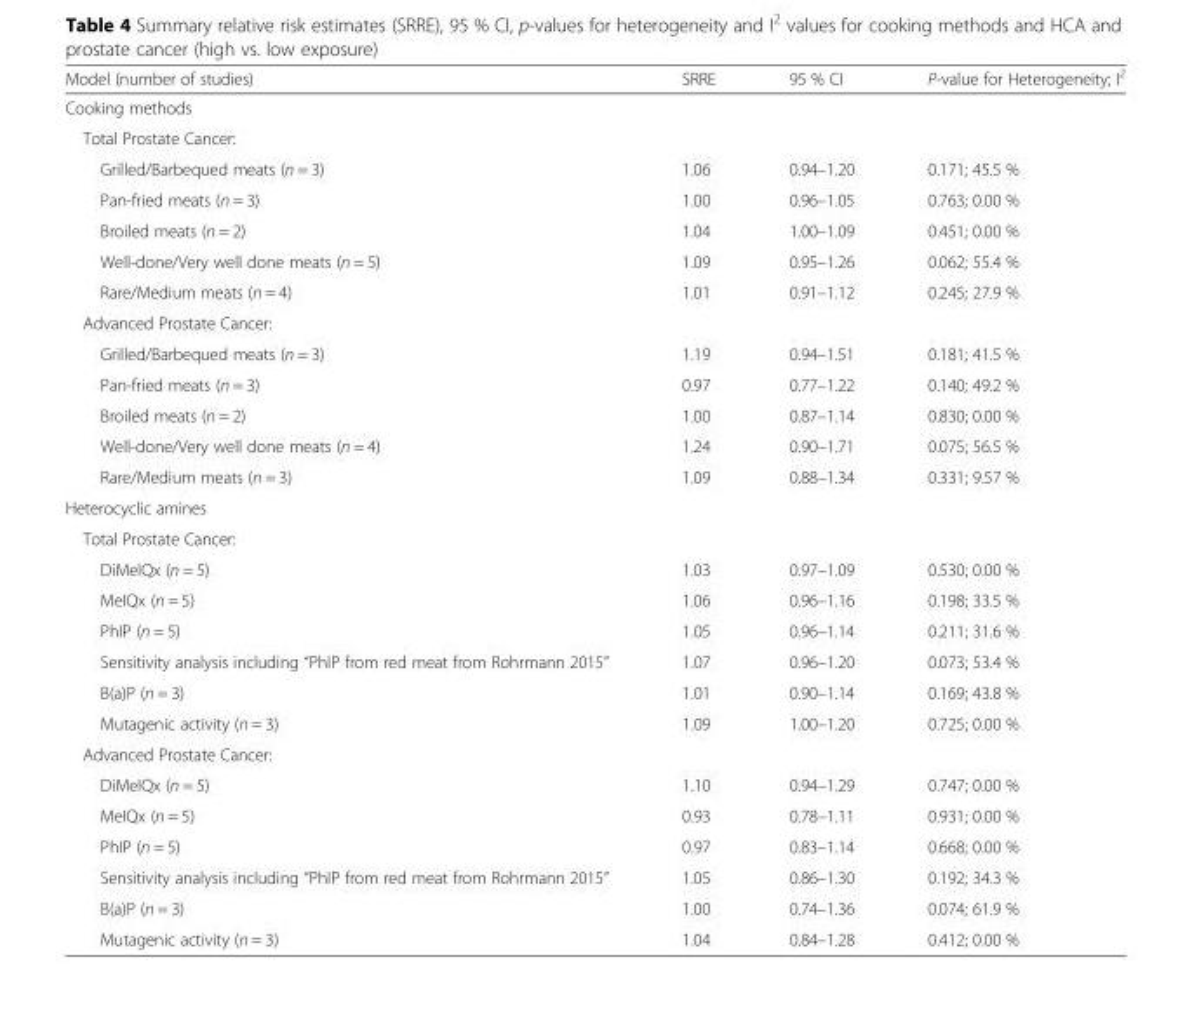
<table><thead><tr><td>Model (number of studies)</td><td>SRRE</td><td>95 % CI</td><td>P-value for Heterogeneity; I<sup>2</sup></td></tr></thead><tbody><tr><td colspan="4">Cooking methods</td></tr><tr><td colspan="4">Total Prostate Cancer:</td></tr><tr><td>Grilled/Barbequed meats (n = 3)</td><td>1.06</td><td>0.94–1.20</td><td>0.171; 45.5 %</td></tr><tr><td>Pan-fried meats (n = 3)</td><td>1.00</td><td>0.96–1.05</td><td>0.763; 0.00 %</td></tr><tr><td>Broiled meats (n = 2)</td><td>1.04</td><td>1.00–1.09</td><td>0.451; 0.00 %</td></tr><tr><td>Well-done/Very well done meats (n = 5)</td><td>1.09</td><td>0.95–1.26</td><td>0.062; 55.4 %</td></tr><tr><td>Rare/Medium meats (n = 4)</td><td>1.01</td><td>0.91–1.12</td><td>0.245; 27.9 %</td></tr><tr><td colspan="4">Advanced Prostate Cancer:</td></tr><tr><td>Grilled/Barbequed meats (n = 3)</td><td>1.19</td><td>0.94–1.51</td><td>0.181; 41.5 %</td></tr><tr><td>Pan-fried meats (n = 3)</td><td>0.97</td><td>0.77–1.22</td><td>0.140; 49.2 %</td></tr><tr><td>Broiled meats (n = 2)</td><td>1.00</td><td>0.87–1.14</td><td>0.830; 0.00 %</td></tr><tr><td>Well-done/Very well done meats (n = 4)</td><td>1.24</td><td>0.90–1.71</td><td>0.075; 56.5 %</td></tr><tr><td>Rare/Medium meats (n = 3)</td><td>1.09</td><td>0.88–1.34</td><td>0.331; 9.57 %</td></tr><tr><td colspan="4">Heterocyclic amines</td></tr><tr><td colspan="4">Total Prostate Cancer:</td></tr><tr><td>DiMeIQx (n = 5)</td><td>1.03</td><td>0.97–1.09</td><td>0.530; 0.00 %</td></tr><tr><td>MeIQx (n = 5)</td><td>1.06</td><td>0.96–1.16</td><td>0.198; 33.5 %</td></tr><tr><td>PhIP (n = 5)</td><td>1.05</td><td>0.96–1.14</td><td>0.211; 31.6 %</td></tr><tr><td>Sensitivity analysis including “PhIP from red meat from Rohrmann 2015”</td><td>1.07</td><td>0.96–1.20</td><td>0.073; 53.4 %</td></tr><tr><td>B(a)P (n = 3)</td><td>1.01</td><td>0.90–1.14</td><td>0.169; 43.8 %</td></tr><tr><td>Mutagenic activity (n = 3)</td><td>1.09</td><td>1.00–1.20</td><td>0.725; 0.00 %</td></tr><tr><td colspan="4">Advanced Prostate Cancer:</td></tr><tr><td>DiMeIQx (n = 5)</td><td>1.10</td><td>0.94–1.29</td><td>0.747; 0.00 %</td></tr><tr><td>MeIQx (n = 5)</td><td>0.93</td><td>0.78–1.11</td><td>0.931; 0.00 %</td></tr><tr><td>PhIP (n = 5)</td><td>0.97</td><td>0.83–1.14</td><td>0.668; 0.00 %</td></tr><tr><td>Sensitivity analysis including “PhIP from red meat from Rohrmann 2015”</td><td>1.05</td><td>0.86–1.30</td><td>0.192; 34.3 %</td></tr><tr><td>B(a)P (n = 3)</td><td>1.00</td><td>0.74–1.36</td><td>0.074; 61.9 %</td></tr><tr><td>Mutagenic activity (n = 3)</td><td>1.04</td><td>0.84–1.28</td><td>0.412; 0.00 %</td></tr></tbody></table>